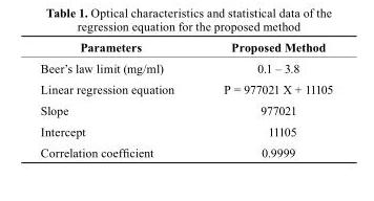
<table><thead><tr><td>Parameters</td><td>Proposed Method</td></tr></thead><tbody><tr><td>Beer’s law limit (mg/ml)</td><td>0.1 – 3.8</td></tr><tr><td>Linear regression equation</td><td>P = 977021 X + 11105</td></tr><tr><td>Slope</td><td>977021</td></tr><tr><td>Intercept</td><td>11105</td></tr><tr><td>Correlation coefficient</td><td>0.9999</td></tr></tbody></table>